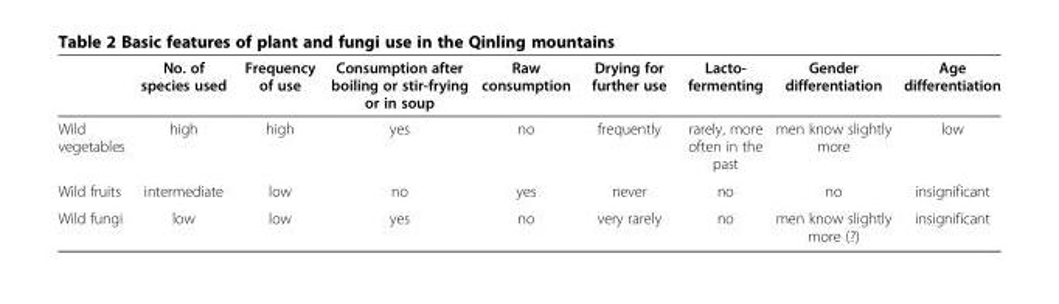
<table><thead><tr><td></td><td>No. of species used</td><td>Frequency of use</td><td>Consumption after boiling or stir-frying or in soup</td><td>Raw consumption</td><td>Drying for further use</td><td>Lacto- fermenting</td><td>Gender differentiation</td><td>Age differentiation</td></tr></thead><tbody><tr><td>Wild vegetables</td><td>high</td><td>high</td><td>yes</td><td>no</td><td>frequently</td><td>rarely, more often in the past</td><td>men know slightly more</td><td>low</td></tr><tr><td>Wild fruits</td><td>intermediate</td><td>low</td><td>no</td><td>yes</td><td>never</td><td>no</td><td>no</td><td>insignificant</td></tr><tr><td>Wild fungi</td><td>low</td><td>low</td><td>yes</td><td>no</td><td>very rarely</td><td>no</td><td>men know slightly more (?)</td><td>insignificant</td></tr></tbody></table>